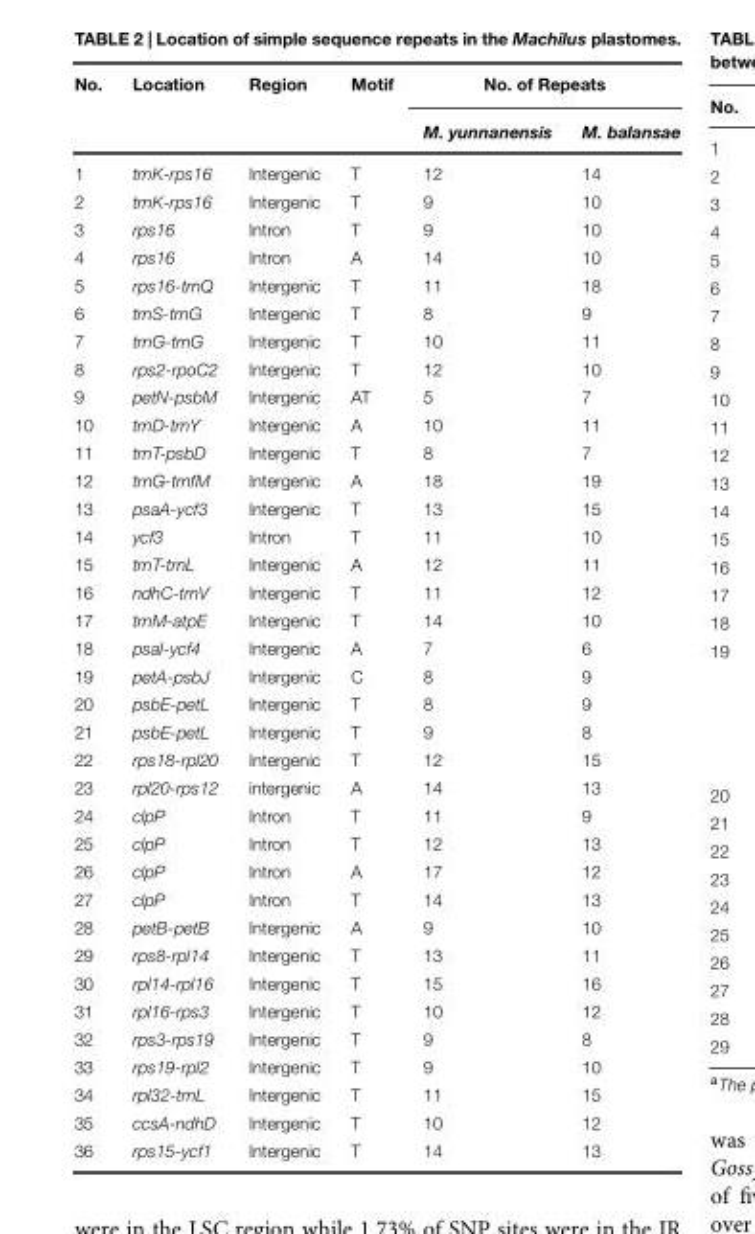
<table><thead><tr><td rowspan="2">No.</td><td rowspan="2">Location</td><td rowspan="2">Region</td><td rowspan="2">Motif</td><td colspan="2">No. of Repeats</td></tr><tr><td>M. yunnanensis</td><td>M. balansae</td></tr></thead><tbody><tr><td>1</td><td>trnK-rps16</td><td>Intergenic</td><td>T</td><td>12</td><td>14</td></tr><tr><td>2</td><td>trnK-rps16</td><td>Intergenic</td><td>T</td><td>9</td><td>10</td></tr><tr><td>3</td><td>rps16</td><td>Intron</td><td>T</td><td>9</td><td>10</td></tr><tr><td>4</td><td>rps16</td><td>Intron</td><td>A</td><td>14</td><td>10</td></tr><tr><td>5</td><td>rps16-trnQ</td><td>Intergenic</td><td>T</td><td>11</td><td>18</td></tr><tr><td>6</td><td>trnS-trnG</td><td>Intergenic</td><td>T</td><td>8</td><td>9</td></tr><tr><td>7</td><td>trnG-trnG</td><td>Intergenic</td><td>T</td><td>10</td><td>11</td></tr><tr><td>8</td><td>rps2-rpoC2</td><td>Intergenic</td><td>T</td><td>12</td><td>10</td></tr><tr><td>9</td><td>petN-psbM</td><td>Intergenic</td><td>AT</td><td>5</td><td>7</td></tr><tr><td>10</td><td>trnD-trnY</td><td>Intergenic</td><td>A</td><td>10</td><td>11</td></tr><tr><td>11</td><td>trnT-psbD</td><td>Intergenic</td><td>T</td><td>8</td><td>7</td></tr><tr><td>12</td><td>trnG-trnfM</td><td>Intergenic</td><td>A</td><td>18</td><td>19</td></tr><tr><td>13</td><td>psaA-ycf3</td><td>Intergenic</td><td>T</td><td>13</td><td>15</td></tr><tr><td>14</td><td>ycf3</td><td>Intron</td><td>T</td><td>11</td><td>10</td></tr><tr><td>15</td><td>trnT-trnL</td><td>Intergenic</td><td>A</td><td>12</td><td>11</td></tr><tr><td>16</td><td>ndhC-trnV</td><td>Intergenic</td><td>T</td><td>11</td><td>12</td></tr><tr><td>17</td><td>trnM-atpE</td><td>Intergenic</td><td>T</td><td>14</td><td>10</td></tr><tr><td>18</td><td>psaI-ycf4</td><td>Intergenic</td><td>A</td><td>7</td><td>6</td></tr><tr><td>19</td><td>petA-psbJ</td><td>Intergenic</td><td>C</td><td>8</td><td>9</td></tr><tr><td>20</td><td>psbE-petL</td><td>Intergenic</td><td>T</td><td>8</td><td>9</td></tr><tr><td>21</td><td>psbE-petL</td><td>Intergenic</td><td>T</td><td>9</td><td>8</td></tr><tr><td>22</td><td>rps18-rpl20</td><td>Intergenic</td><td>T</td><td>12</td><td>15</td></tr><tr><td>23</td><td>rpl20-rps12</td><td>intergenic</td><td>A</td><td>14</td><td>13</td></tr><tr><td>24</td><td>clpP</td><td>Intron</td><td>T</td><td>11</td><td>9</td></tr><tr><td>25</td><td>clpP</td><td>Intron</td><td>T</td><td>12</td><td>13</td></tr><tr><td>26</td><td>clpP</td><td>Intron</td><td>A</td><td>17</td><td>12</td></tr><tr><td>27</td><td>clpP</td><td>Intron</td><td>T</td><td>14</td><td>13</td></tr><tr><td>28</td><td>petB-petB</td><td>Intergenic</td><td>A</td><td>9</td><td>10</td></tr><tr><td>29</td><td>rps8-rpl14</td><td>Intergenic</td><td>T</td><td>13</td><td>11</td></tr><tr><td>30</td><td>rpl14-rpl16</td><td>Intergenic</td><td>T</td><td>15</td><td>16</td></tr><tr><td>31</td><td>rpl16-rps3</td><td>Intergenic</td><td>T</td><td>10</td><td>12</td></tr><tr><td>32</td><td>rps3-rps19</td><td>Intergenic</td><td>T</td><td>9</td><td>8</td></tr><tr><td>33</td><td>rps19-rpl2</td><td>Intergenic</td><td>T</td><td>9</td><td>10</td></tr><tr><td>34</td><td>rpl32-trnL</td><td>Intergenic</td><td>T</td><td>11</td><td>15</td></tr><tr><td>35</td><td>ccsA-ndhD</td><td>Intergenic</td><td>T</td><td>10</td><td>12</td></tr><tr><td>36</td><td>rps15-ycf1</td><td>Intergenic</td><td>T</td><td>14</td><td>13</td></tr></tbody></table>